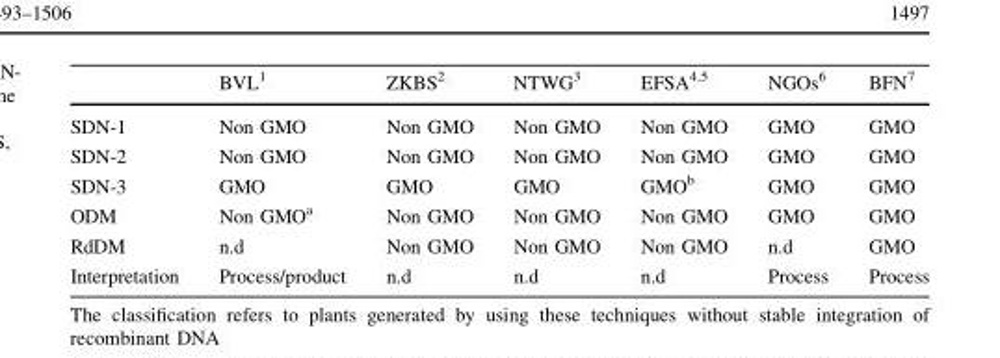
<table><thead><tr><td></td><td>BVL<sup>1</sup></td><td>ZKBS<sup>2</sup></td><td>NTWG<sup>3</sup></td><td>EFSA<sup>4,5</sup></td><td>NGOs<sup>6</sup></td><td>BFN<sup>7</sup></td></tr></thead><tbody><tr><td>SDN-1</td><td>Non GMO</td><td>Non GMO</td><td>Non GMO</td><td>Non GMO</td><td>GMO</td><td>GMO</td></tr><tr><td>SDN-2</td><td>Non GMO</td><td>Non GMO</td><td>Non GMO</td><td>Non GMO</td><td>GMO</td><td>GMO</td></tr><tr><td>SDN-3</td><td>GMO</td><td>GMO</td><td>GMO</td><td>GMO<sup>b</sup></td><td>GMO</td><td>GMO</td></tr><tr><td>ODM</td><td>Non GMO<sup>a</sup></td><td>Non GMO</td><td>Non GMO</td><td>Non GMO</td><td>GMO</td><td>GMO</td></tr><tr><td>RdDM</td><td>n.d</td><td>Non GMO</td><td>Non GMO</td><td>Non GMO</td><td>n.d</td><td>GMO</td></tr><tr><td>Interpretation</td><td>Process/product</td><td>n.d</td><td>n.d</td><td>n.d</td><td>Process</td><td>Process</td></tr></tbody></table>